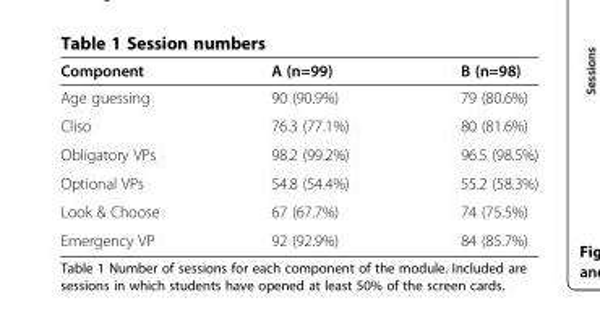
<table><thead><tr><td>Component</td><td>A (n=99)</td><td>B (n=98)</td></tr></thead><tbody><tr><td>Age guessing</td><td>90 (90.9%)</td><td>79 (80.6%)</td></tr><tr><td>Cliso</td><td>76.3 (77.1%)</td><td>80 (81.6%)</td></tr><tr><td>Obligatory VPs</td><td>98.2 (99.2%)</td><td>96.5 (98.5%)</td></tr><tr><td>Optional VPs</td><td>54.8 (54.4%)</td><td>55.2 (58.3%)</td></tr><tr><td>Look &amp; Choose</td><td>67 (67.7%)</td><td>74 (75.5%)</td></tr><tr><td>Emergency VP</td><td>92 (92.9%)</td><td>84 (85.7%)</td></tr></tbody></table>